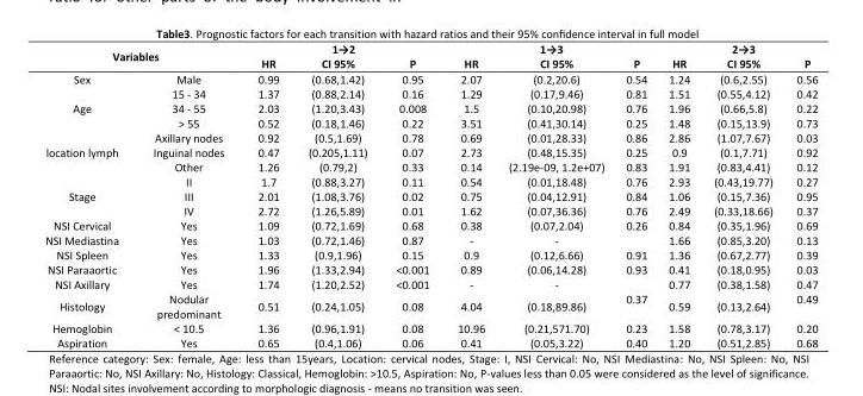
<table><thead><tr><td rowspan="2" colspan="2">Variables</td><td colspan="3">1→2</td><td colspan="3">1→3</td><td colspan="3">2→3</td></tr><tr><td rowspan="2">HR 0.99</td><td rowspan="2">CI 95% (0.68,1.42)</td><td rowspan="2">P 0.95</td><td rowspan="2">HR 2.07</td><td rowspan="2">CI 95% (0.2,20.6)</td><td rowspan="2">P 0.54</td><td rowspan="2">HR 1.24</td><td rowspan="2">CI 95% (0.6,2.55)</td><td rowspan="2">P 0.56</td></tr><tr><td>Sex</td><td>Male</td></tr></thead><tbody><tr><td rowspan="3">Age</td><td>15 - 34</td><td>1.37</td><td>(0.88,2.14)</td><td>0.16</td><td>1.29</td><td>(0.17,9.46)</td><td>0.81</td><td>1.51</td><td>(0.55,4.12)</td><td>0.42</td></tr><tr><td>34 - 55</td><td>2.03</td><td>(1.20,3.43)</td><td>0.008</td><td>1.5</td><td>(0.10,20.98)</td><td>0.76</td><td>1.96</td><td>(0.66,5.8)</td><td>0.22</td></tr><tr><td>&gt; 55</td><td>0.52</td><td>(0.18,1.46)</td><td>0.22</td><td>3.51</td><td>(0.41,30.14)</td><td>0.25</td><td>1.48</td><td>(0.15,13.9)</td><td>0.73</td></tr><tr><td rowspan="3">location lymph</td><td>Axillary nodes</td><td>0.92</td><td>(0.5,1.69)</td><td>0.78</td><td>0.69</td><td>(0.01,28.33)</td><td>0.86</td><td>2.86</td><td>(1.07,7.67)</td><td>0.03</td></tr><tr><td>Inguinal nodes</td><td>0.47</td><td>(0.205,1.11)</td><td>0.07</td><td>2.73</td><td>(0.48,15.35)</td><td>0.25</td><td>0.9</td><td>(0.1,7.71)</td><td>0.92</td></tr><tr><td>Other</td><td>1.26</td><td>(0.79,2)</td><td>0.33</td><td>0.14</td><td>(2.19e-09, 1.2e+07)</td><td>0.83</td><td>1.91</td><td>(0.83,4.41)</td><td>0.12</td></tr><tr><td rowspan="3">Stage</td><td>II</td><td>1.7</td><td>(0.88,3.27)</td><td>0.11</td><td>0.54</td><td>(0.01,18.48)</td><td>0.76</td><td>2.93</td><td>(0.43,19.77)</td><td>0.27</td></tr><tr><td>III</td><td>2.01</td><td>(1.08,3.76)</td><td>0.02</td><td>0.75</td><td>(0.04,12.91)</td><td>0.84</td><td>1.06</td><td>(0.15,7.36)</td><td>0.95</td></tr><tr><td>IV</td><td>2.72</td><td>(1.26,5.89)</td><td>0.01</td><td>1.62</td><td>(0.07,36.36)</td><td>0.76</td><td>2.49</td><td>(0.33,18.66)</td><td>0.37</td></tr><tr><td>NSI Cervical</td><td>Yes</td><td>1.09</td><td>(0.72,1.69)</td><td>0.68</td><td>0.38</td><td>(0.07,2.04)</td><td>0.26</td><td>0.84</td><td>(0.35,1.96)</td><td>0.69</td></tr><tr><td>NSI Mediastina</td><td>Yes</td><td>1.03</td><td>(0.72,1.46)</td><td>0.87</td><td>-</td><td>-</td><td></td><td>1.66</td><td>(0.85,3.20)</td><td>0.13</td></tr><tr><td>NSI Spleen</td><td>Yes</td><td>1.33</td><td>(0.9,1.96)</td><td>0.15</td><td>0.9</td><td>(0.12,6.66)</td><td>0.91</td><td>1.36</td><td>(0.67,2.77)</td><td>0.39</td></tr><tr><td>NSI Paraaortic</td><td>Yes</td><td>1.96</td><td>(1.33,2.94)</td><td>&lt;0.001</td><td>0.89</td><td>(0.06,14.28)</td><td>0.93</td><td>0.41</td><td>(0.18,0.95)</td><td>0.03</td></tr><tr><td>NSI Axillary</td><td>Yes</td><td>1.74</td><td>(1.20,2.52)</td><td>&lt;0.001</td><td>-</td><td>-</td><td></td><td>0.77</td><td>(0.38,1.58)</td><td>0.47</td></tr><tr><td>Histology</td><td>Nodular predominant</td><td>0.51</td><td>(0.24,1.05)</td><td>0.08</td><td>4.04</td><td>(0.18,89.86)</td><td>0.37</td><td>0.59</td><td>(0.13,2.64)</td><td>0.49</td></tr><tr><td>Hemoglobin</td><td>&lt; 10.5</td><td>1.36</td><td>(0.96,1.91)</td><td>0.08</td><td>10.96</td><td>(0.21,571.70)</td><td>0.23</td><td>1.58</td><td>(0.78,3.17)</td><td>0.20</td></tr><tr><td>Aspiration</td><td>Yes</td><td>0.65</td><td>(0.4,1.06)</td><td>0.06</td><td>0.41</td><td>(0.05,3.22)</td><td>0.40</td><td>1.20</td><td>(0.51,2.85)</td><td>0.68</td></tr></tbody></table>